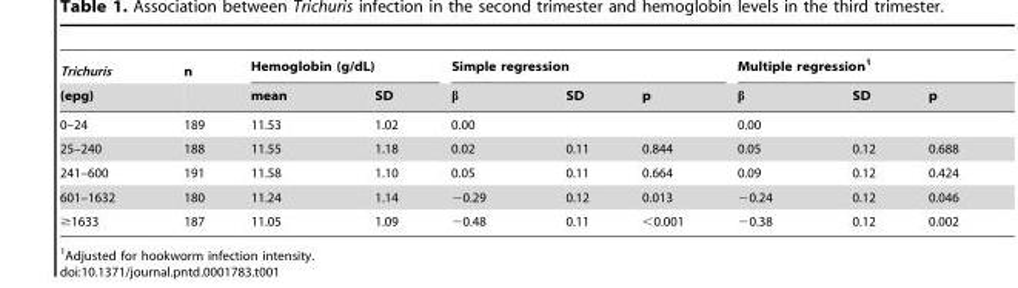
<table><thead><tr><td rowspan="2">Trichuris (epg)</td><td rowspan="2">n</td><td colspan="2">Hemoglobin (g/dL)</td><td colspan="3">Simple regression</td><td colspan="3">Multiple regression<sup>1</sup></td></tr><tr><td>mean</td><td>SD</td><td>β</td><td>SD</td><td>p</td><td>β</td><td>SD</td><td>p</td></tr></thead><tbody><tr><td>0–24</td><td>189</td><td>11.53</td><td>1.02</td><td>0.00</td><td></td><td></td><td>0.00</td><td></td><td></td></tr><tr><td>25–240</td><td>188</td><td>11.55</td><td>1.18</td><td>0.02</td><td>0.11</td><td>0.844</td><td>0.05</td><td>0.12</td><td>0.688</td></tr><tr><td>241–600</td><td>191</td><td>11.58</td><td>1.10</td><td>0.05</td><td>0.11</td><td>0.664</td><td>0.09</td><td>0.12</td><td>0.424</td></tr><tr><td>601–1632</td><td>180</td><td>11.24</td><td>1.14</td><td>−0.29</td><td>0.12</td><td>0.013</td><td>−0.24</td><td>0.12</td><td>0.046</td></tr><tr><td>≥1633</td><td>187</td><td>11.05</td><td>1.09</td><td>−0.48</td><td>0.11</td><td>&lt;0.001</td><td>−0.38</td><td>0.12</td><td>0.002</td></tr></tbody></table>